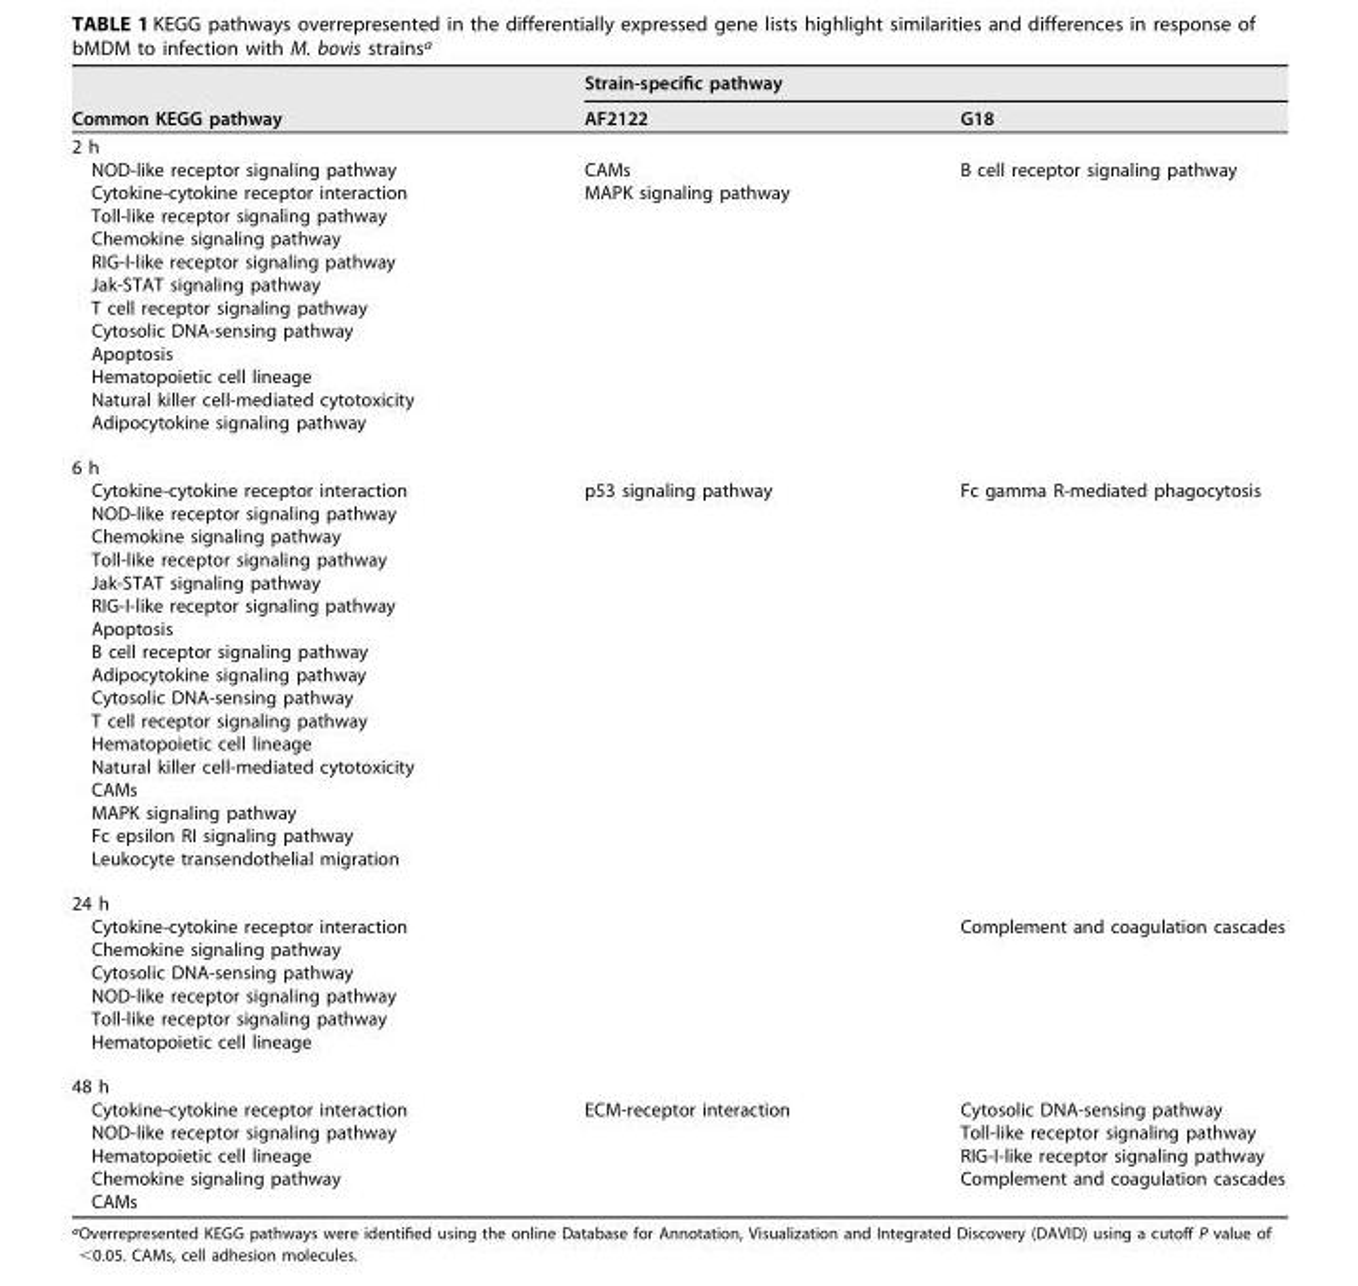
<table><thead><tr><td rowspan="2">Common KEGG pathway</td><td colspan="2">Strain-specific pathway</td></tr><tr><td>AF2122</td><td>G18</td></tr></thead><tbody><tr><td colspan="3">2 h</td></tr><tr><td>NOD-like receptor signaling pathway</td><td>CAMs</td><td>B cell receptor signaling pathway</td></tr><tr><td>Cytokine-cytokine receptor interaction</td><td>MAPK signaling pathway</td><td></td></tr><tr><td colspan="3">Toll-like receptor signaling pathway</td></tr><tr><td colspan="3">Chemokine signaling pathway</td></tr><tr><td colspan="3">RIG-I-like receptor signaling pathway</td></tr><tr><td colspan="3">Jak-STAT signaling pathway</td></tr><tr><td colspan="3">T cell receptor signaling pathway</td></tr><tr><td colspan="3">Cytosolic DNA-sensing pathway</td></tr><tr><td colspan="3">Apoptosis</td></tr><tr><td colspan="3">Hematopoietic cell lineage</td></tr><tr><td colspan="3">Natural killer cell-mediated cytotoxicity</td></tr><tr><td colspan="3">Adipocytokine signaling pathway</td></tr><tr><td colspan="3">6 h</td></tr><tr><td>Cytokine-cytokine receptor interaction</td><td>p53 signaling pathway</td><td>Fc gamma R-mediated phagocytosis</td></tr><tr><td colspan="3">NOD-like receptor signaling pathway</td></tr><tr><td colspan="3">Chemokine signaling pathway</td></tr><tr><td colspan="3">Toll-like receptor signaling pathway</td></tr><tr><td colspan="3">Jak-STAT signaling pathway</td></tr><tr><td colspan="3">RIG-I-like receptor signaling pathway</td></tr><tr><td colspan="3">Apoptosis</td></tr><tr><td colspan="3">B cell receptor signaling pathway</td></tr><tr><td colspan="3">Adipocytokine signaling pathway</td></tr><tr><td colspan="3">Cytosolic DNA-sensing pathway</td></tr><tr><td colspan="3">T cell receptor signaling pathway</td></tr><tr><td colspan="3">Hematopoietic cell lineage</td></tr><tr><td colspan="3">Natural killer cell-mediated cytotoxicity</td></tr><tr><td colspan="3">CAMs</td></tr><tr><td colspan="3">MAPK signaling pathway</td></tr><tr><td colspan="3">Fc epsilon RI signaling pathway</td></tr><tr><td colspan="3">Leukocyte transendothelial migration</td></tr><tr><td colspan="3">24 h</td></tr><tr><td>Cytokine-cytokine receptor interaction</td><td></td><td>Complement and coagulation cascades</td></tr><tr><td colspan="3">Chemokine signaling pathway</td></tr><tr><td colspan="3">Cytosolic DNA-sensing pathway</td></tr><tr><td colspan="3">NOD-like receptor signaling pathway</td></tr><tr><td colspan="3">Toll-like receptor signaling pathway</td></tr><tr><td colspan="3">Hematopoietic cell lineage</td></tr><tr><td colspan="3">48 h</td></tr><tr><td>Cytokine-cytokine receptor interaction</td><td>ECM-receptor interaction</td><td>Cytosolic DNA-sensing pathway</td></tr><tr><td>NOD-like receptor signaling pathway</td><td></td><td>Toll-like receptor signaling pathway</td></tr><tr><td>Hematopoietic cell lineage</td><td></td><td>RIG-I-like receptor signaling pathway</td></tr><tr><td>Chemokine signaling pathway</td><td></td><td>Complement and coagulation cascades</td></tr><tr><td>CAMs</td><td></td><td></td></tr></tbody></table>